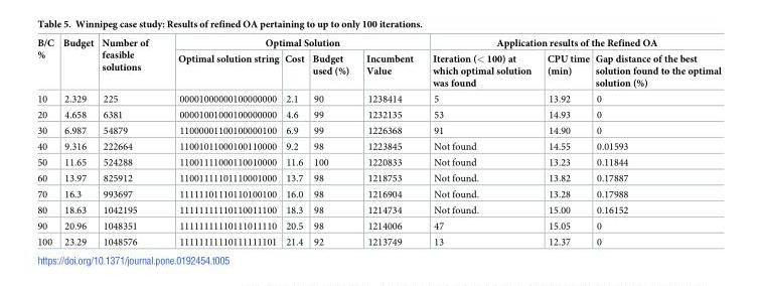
<table><thead><tr><td rowspan="2">B/C %</td><td rowspan="2">Budget</td><td rowspan="2">Number of feasible solutions</td><td colspan="4">Optimal Solution</td><td colspan="3">Application results of the Refined OA</td></tr><tr><td>Optimal solution string</td><td>Cost</td><td>Budget used (%)</td><td>Incumbent Value</td><td>Iteration (&lt; 100) at which optimal solution was found</td><td>CPU time (min)</td><td>Gap distance of the best solution found to the optimal solution (%)</td></tr></thead><tbody><tr><td>10</td><td>2.329</td><td>225</td><td>00001000000100000000</td><td>2.1</td><td>90</td><td>1238414</td><td>5</td><td>13.92</td><td>0</td></tr><tr><td>20</td><td>4.658</td><td>6381</td><td>00001001000100000000</td><td>4.6</td><td>99</td><td>1232135</td><td>53</td><td>14.93</td><td>0</td></tr><tr><td>30</td><td>6.987</td><td>54879</td><td>11000001100100000100</td><td>6.9</td><td>99</td><td>1226368</td><td>91</td><td>14.90</td><td>0</td></tr><tr><td>40</td><td>9.316</td><td>222664</td><td>11001011000100110000</td><td>9.2</td><td>98</td><td>1223845</td><td>Not found</td><td>14.55</td><td>0.01593</td></tr><tr><td>50</td><td>11.65</td><td>524288</td><td>11001111000110010000</td><td>11.6</td><td>100</td><td>1220833</td><td>Not found</td><td>13.23</td><td>0.11844</td></tr><tr><td>60</td><td>13.97</td><td>825912</td><td>11001111101110001000</td><td>13.7</td><td>98</td><td>1218753</td><td>Not found.</td><td>13.82</td><td>0.17887</td></tr><tr><td>70</td><td>16.3</td><td>993697</td><td>11111101110110100100</td><td>16.0</td><td>98</td><td>1216904</td><td>Not found.</td><td>13.28</td><td>0.17988</td></tr><tr><td>80</td><td>18.63</td><td>1042195</td><td>11111111110110011100</td><td>18.3</td><td>98</td><td>1214734</td><td>Not found.</td><td>15.00</td><td>0.16152</td></tr><tr><td>90</td><td>20.96</td><td>1048351</td><td>11111111110111011110</td><td>20.5</td><td>98</td><td>1214006</td><td>47</td><td>15.05</td><td>0</td></tr><tr><td>100</td><td>23.29</td><td>1048576</td><td>11111111110111111101</td><td>21.4</td><td>92</td><td>1213749</td><td>13</td><td>12.37</td><td>0</td></tr></tbody></table>